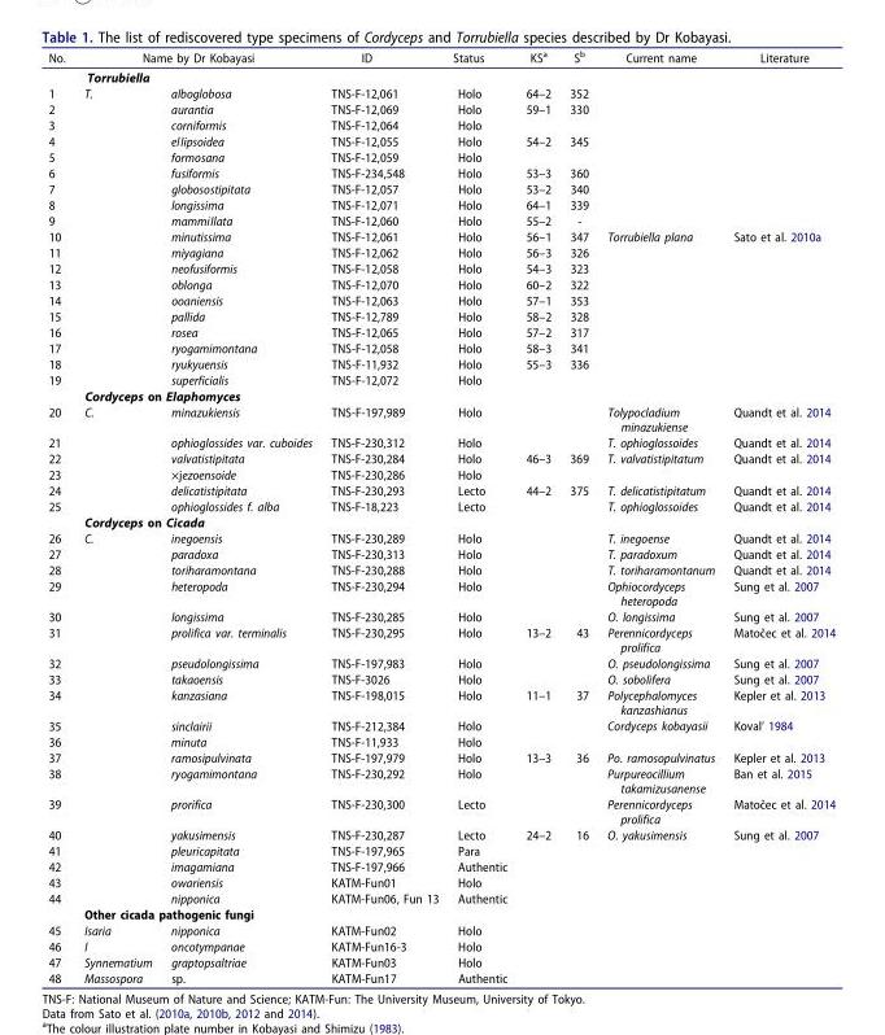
<table><thead><tr><td rowspan="2">No.</td><td colspan="2">Name by Dr Kobayasi</td><td rowspan="2">ID</td><td rowspan="2">Status</td><td rowspan="2">KS<sup>a</sup></td><td rowspan="2">S<sup>b</sup></td><td rowspan="2">Current name</td><td rowspan="2">Literature</td></tr><tr><td>Torrubiella</td><td></td></tr></thead><tbody><tr><td>1</td><td>T.</td><td>alboglobosa</td><td>TNS-F-12,061</td><td>Holo</td><td>64–2</td><td>352</td><td></td><td></td></tr><tr><td>2</td><td></td><td>aurantia</td><td>TNS-F-12,069</td><td>Holo</td><td>59–1</td><td>330</td><td></td><td></td></tr><tr><td>3</td><td></td><td>corniformis</td><td>TNS-F-12,064</td><td>Holo</td><td></td><td></td><td></td><td></td></tr><tr><td>4</td><td></td><td>elIipsoidea</td><td>TNS-F-12,055</td><td>Holo</td><td>54–2</td><td>345</td><td></td><td></td></tr><tr><td>5</td><td></td><td>formosana</td><td>TNS-F-12,059</td><td>Holo</td><td></td><td></td><td></td><td></td></tr><tr><td>6</td><td></td><td>fusiformis</td><td>TNS-F-234,548</td><td>Holo</td><td>53–3</td><td>360</td><td></td><td></td></tr><tr><td>7</td><td></td><td>globosostipitata</td><td>TNS-F-12,057</td><td>Holo</td><td>53–2</td><td>340</td><td></td><td></td></tr><tr><td>8</td><td></td><td>longissima</td><td>TNS-F-12,071</td><td>Holo</td><td>64–1</td><td>339</td><td></td><td></td></tr><tr><td>9</td><td></td><td>mammiIlata</td><td>TNS-F-12,060</td><td>Holo</td><td>55–2</td><td>-</td><td></td><td></td></tr><tr><td>10</td><td></td><td>minutissima</td><td>TNS-F-12,061</td><td>Holo</td><td>56–1</td><td>347</td><td>Torrubiella plana</td><td>Sato et al. 2010a</td></tr><tr><td>11</td><td></td><td>miyagiana</td><td>TNS-F-12,062</td><td>Holo</td><td>56–3</td><td>326</td><td></td><td></td></tr><tr><td>12</td><td></td><td>neofusiformis</td><td>TNS-F-12,058</td><td>Holo</td><td>54–3</td><td>323</td><td></td><td></td></tr><tr><td>13</td><td></td><td>oblonga</td><td>TNS-F-12,070</td><td>Holo</td><td>60–2</td><td>322</td><td></td><td></td></tr><tr><td>14</td><td></td><td>ooaniensis</td><td>TNS-F-12,063</td><td>Holo</td><td>57–1</td><td>353</td><td></td><td></td></tr><tr><td>15</td><td></td><td>pallida</td><td>TNS-F-12,789</td><td>Holo</td><td>58–2</td><td>328</td><td></td><td></td></tr><tr><td>16</td><td></td><td>rosea</td><td>TNS-F-12,065</td><td>Holo</td><td>57–2</td><td>317</td><td></td><td></td></tr><tr><td>17</td><td></td><td>ryogamimontana</td><td>TNS-F-12,058</td><td>Holo</td><td>58–3</td><td>341</td><td></td><td></td></tr><tr><td>18</td><td></td><td>ryukyuensis</td><td>TNS-F-11,932</td><td>Holo</td><td>55–3</td><td>336</td><td></td><td></td></tr><tr><td rowspan="2">19</td><td></td><td>superficialis</td><td>TNS-F-12,072</td><td>Holo</td><td></td><td></td><td></td><td></td></tr><tr><td colspan="2">Cordyceps on Elaphomyces</td><td></td><td></td><td></td><td></td><td></td><td></td></tr><tr><td>20</td><td>C.</td><td>minazukiensis</td><td>TNS-F-197,989</td><td>Holo</td><td></td><td></td><td>Tolypocladium minazukiense</td><td>Quandt et al. 2014</td></tr><tr><td>21</td><td></td><td>ophioglossides var. cuboides</td><td>TNS-F-230,312</td><td>Holo</td><td></td><td></td><td>T. ophioglossoides</td><td>Quandt et al. 2014</td></tr><tr><td>22</td><td></td><td>valvatistipitata</td><td>TNS-F-230,284</td><td>Holo</td><td>46–3</td><td>369</td><td>T. valvatistipitatum</td><td>Quandt et al. 2014</td></tr><tr><td>23</td><td></td><td>×jezoensoide</td><td>TNS-F-230,286</td><td>Holo</td><td></td><td></td><td></td><td></td></tr><tr><td>24</td><td></td><td>delicatistipitata</td><td>TNS-F-230,293</td><td>Lecto</td><td>44–2</td><td>375</td><td>T. delicatistipitatum</td><td>Quandt et al. 2014</td></tr><tr><td rowspan="2">25</td><td></td><td>ophioglossides f. alba</td><td>TNS-F-18,223</td><td>Lecto</td><td></td><td></td><td>T. ophioglossoides</td><td>Quandt et al. 2014</td></tr><tr><td colspan="2">Cordyceps on Cicada</td><td></td><td></td><td></td><td></td><td></td><td></td></tr><tr><td>26</td><td>C.</td><td>inegoensis</td><td>TNS-F-230,289</td><td>Holo</td><td></td><td></td><td>T. inegoense</td><td>Quandt et al. 2014</td></tr><tr><td>27</td><td></td><td>paradoxa</td><td>TNS-F-230,313</td><td>Holo</td><td></td><td></td><td>T. paradoxum</td><td>Quandt et al. 2014</td></tr><tr><td>28</td><td></td><td>toriharamontana</td><td>TNS-F-230,288</td><td>Holo</td><td></td><td></td><td>T. toriharamontanum</td><td>Quandt et al. 2014</td></tr><tr><td>29</td><td></td><td>heteropoda</td><td>TNS-F-230,294</td><td>Holo</td><td></td><td></td><td>Ophiocordyceps heteropoda</td><td>Sung et al. 2007</td></tr><tr><td>30</td><td></td><td>longissima</td><td>TNS-F-230,285</td><td>Holo</td><td></td><td></td><td>O. longissima</td><td>Sung et al. 2007</td></tr><tr><td>31</td><td></td><td>prolifica var. terminalis</td><td>TNS-F-230,295</td><td>Holo</td><td>13–2</td><td>43</td><td>Perennicordyceps prolifica</td><td>Matočec et al. 2014</td></tr><tr><td>32</td><td></td><td>pseudolongissima</td><td>TNS-F-197,983</td><td>Holo</td><td></td><td></td><td>O. pseudolongissima</td><td>Sung et al. 2007</td></tr><tr><td>33</td><td></td><td>takaoensis</td><td>TNS-F-3026</td><td>Holo</td><td></td><td></td><td>O. sobolifera</td><td>Sung et al. 2007</td></tr><tr><td>34</td><td></td><td>kanzasiana</td><td>TNS-F-198,015</td><td>Holo</td><td>11–1</td><td>37</td><td>Polycephalomyces kanzashianus</td><td>Kepler et al. 2013</td></tr><tr><td>35</td><td></td><td>sinclairii</td><td>TNS-F-212,384</td><td>Holo</td><td></td><td></td><td>Cordyceps kobayasii</td><td>Koval’ 1984</td></tr><tr><td>36</td><td></td><td>minuta</td><td>TNS-F-11,933</td><td>Holo</td><td></td><td></td><td></td><td></td></tr><tr><td>37</td><td></td><td>ramosipulvinata</td><td>TNS-F-197,979</td><td>Holo</td><td>13–3</td><td>36</td><td>Po. ramosopulvinatus</td><td>Kepler et al. 2013</td></tr><tr><td>38</td><td></td><td>ryogamimontana</td><td>TNS-F-230,292</td><td>Holo</td><td></td><td></td><td>Purpureocillium takamizusanense</td><td>Ban et al. 2015</td></tr><tr><td>39</td><td></td><td>prorifica</td><td>TNS-F-230,300</td><td>Lecto</td><td></td><td></td><td>Perennicordyceps prolifica</td><td>Matočec et al. 2014</td></tr><tr><td>40</td><td></td><td>yakusimensis</td><td>TNS-F-230,287</td><td>Lecto</td><td>24–2</td><td>16</td><td>O. yakusimensis</td><td>Sung et al. 2007</td></tr><tr><td>41</td><td></td><td>pleuricapitata</td><td>TNS-F-197,965</td><td>Para</td><td></td><td></td><td></td><td></td></tr><tr><td>42</td><td></td><td>imagamiana</td><td>TNS-F-197,966</td><td>Authentic</td><td></td><td></td><td></td><td></td></tr><tr><td>43</td><td></td><td>owariensis</td><td>KATM-Fun01</td><td>Holo</td><td></td><td></td><td></td><td></td></tr><tr><td rowspan="2">44</td><td></td><td>nipponica</td><td>KATM-Fun06, Fun 13</td><td>Authentic</td><td></td><td></td><td></td><td></td></tr><tr><td colspan="3">Other cicada pathogenic fungi</td><td></td><td></td><td></td><td></td><td></td></tr><tr><td>45</td><td>Isaria</td><td>nipponica</td><td>KATM-Fun02</td><td>Holo</td><td></td><td></td><td></td><td></td></tr><tr><td>46</td><td>I</td><td>oncotympanae</td><td>KATM-Fun16-3</td><td>Holo</td><td></td><td></td><td></td><td></td></tr><tr><td>47</td><td>Synnematium</td><td>graptopsaltriae</td><td>KATM-Fun03</td><td>Holo</td><td></td><td></td><td></td><td></td></tr><tr><td>48</td><td>Massospora</td><td>sp.</td><td>KATM-Fun17</td><td>Authentic</td><td></td><td></td><td></td><td></td></tr></tbody></table>